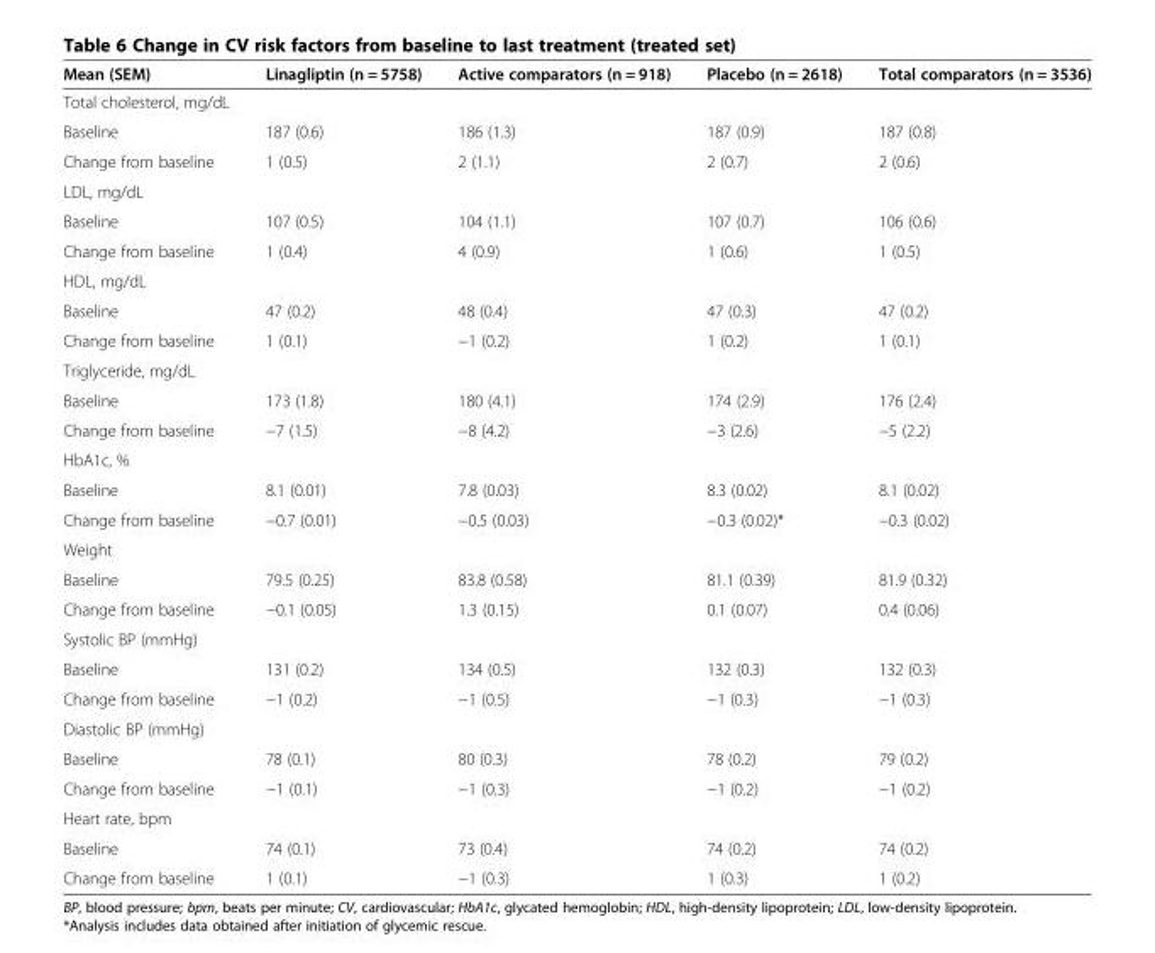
<table><thead><tr><td>Mean (SEM)</td><td>Linagliptin (n = 5758)</td><td>Active comparators (n = 918)</td><td>Placebo (n = 2618)</td><td>Total comparators (n = 3536)</td></tr></thead><tbody><tr><td colspan="5">Total cholesterol, mg/dL</td></tr><tr><td>Baseline</td><td>187 (0.6)</td><td>186 (1.3)</td><td>187 (0.9)</td><td>187 (0.8)</td></tr><tr><td>Change from baseline</td><td>1 (0.5)</td><td>2 (1.1)</td><td>2 (0.7)</td><td>2 (0.6)</td></tr><tr><td colspan="5">LDL, mg/dL</td></tr><tr><td>Baseline</td><td>107 (0.5)</td><td>104 (1.1)</td><td>107 (0.7)</td><td>106 (0.6)</td></tr><tr><td>Change from baseline</td><td>1 (0.4)</td><td>4 (0.9)</td><td>1 (0.6)</td><td>1 (0.5)</td></tr><tr><td colspan="5">HDL, mg/dL</td></tr><tr><td>Baseline</td><td>47 (0.2)</td><td>48 (0.4)</td><td>47 (0.3)</td><td>47 (0.2)</td></tr><tr><td>Change from baseline</td><td>1 (0.1)</td><td>−1 (0.2)</td><td>1 (0.2)</td><td>1 (0.1)</td></tr><tr><td colspan="5">Triglyceride, mg/dL</td></tr><tr><td>Baseline</td><td>173 (1.8)</td><td>180 (4.1)</td><td>174 (2.9)</td><td>176 (2.4)</td></tr><tr><td>Change from baseline</td><td>−7 (1.5)</td><td>−8 (4.2)</td><td>−3 (2.6)</td><td>−5 (2.2)</td></tr><tr><td colspan="5">HbA1c, %</td></tr><tr><td>Baseline</td><td>8.1 (0.01)</td><td>7.8 (0.03)</td><td>8.3 (0.02)</td><td>8.1 (0.02)</td></tr><tr><td>Change from baseline</td><td>−0.7 (0.01)</td><td>−0.5 (0.03)</td><td>−0.3 (0.02)*</td><td>−0.3 (0.02)</td></tr><tr><td colspan="5">Weight</td></tr><tr><td>Baseline</td><td>79.5 (0.25)</td><td>83.8 (0.58)</td><td>81.1 (0.39)</td><td>81.9 (0.32)</td></tr><tr><td>Change from baseline</td><td>−0.1 (0.05)</td><td>1.3 (0.15)</td><td>0.1 (0.07)</td><td>0.4 (0.06)</td></tr><tr><td colspan="5">Systolic BP (mmHg)</td></tr><tr><td>Baseline</td><td>131 (0.2)</td><td>134 (0.5)</td><td>132 (0.3)</td><td>132 (0.3)</td></tr><tr><td>Change from baseline</td><td>−1 (0.2)</td><td>−1 (0.5)</td><td>−1 (0.3)</td><td>−1 (0.3)</td></tr><tr><td colspan="5">Diastolic BP (mmHg)</td></tr><tr><td>Baseline</td><td>78 (0.1)</td><td>80 (0.3)</td><td>78 (0.2)</td><td>79 (0.2)</td></tr><tr><td>Change from baseline</td><td>−1 (0.1)</td><td>−1 (0.3)</td><td>−1 (0.2)</td><td>−1 (0.2)</td></tr><tr><td colspan="5">Heart rate, bpm</td></tr><tr><td>Baseline</td><td>74 (0.1)</td><td>73 (0.4)</td><td>74 (0.2)</td><td>74 (0.2)</td></tr><tr><td>Change from baseline</td><td>1 (0.1)</td><td>−1 (0.3)</td><td>1 (0.3)</td><td>1 (0.2)</td></tr></tbody></table>